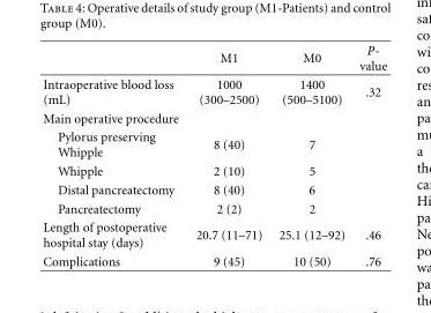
<table><thead><tr><td></td><td>M1</td><td>M0</td><td>P- value</td></tr></thead><tbody><tr><td>Intraoperative blood loss (mL)</td><td>1000 (300–2500)</td><td>1400 (500–5100)</td><td>.32</td></tr><tr><td colspan="4">Main operative procedure</td></tr><tr><td>Pylorus preserving Whipple</td><td>8 (40)</td><td>7</td><td></td></tr><tr><td>Whipple</td><td>2 (10)</td><td>5</td><td></td></tr><tr><td>Distal pancreatectomy</td><td>8 (40)</td><td>6</td><td></td></tr><tr><td>Pancreatectomy</td><td>2 (2)</td><td>2</td><td></td></tr><tr><td>Length of postoperative hospital stay (days)</td><td>20.7 (11–71)</td><td>25.1 (12–92)</td><td>.46</td></tr><tr><td>Complications</td><td>9 (45)</td><td>10 (50)</td><td>.76</td></tr></tbody></table>